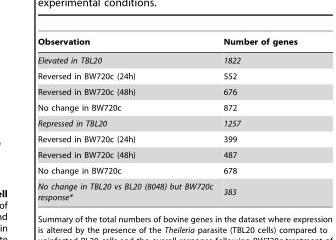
<table><thead><tr><td>Observation</td><td>Number of genes</td></tr></thead><tbody><tr><td>Elevated in TBL20</td><td>1822</td></tr><tr><td>Reversed in BW720c (24h)</td><td>552</td></tr><tr><td>Reversed in BW720c (48h)</td><td>676</td></tr><tr><td>No change in BW720c</td><td>872</td></tr><tr><td>Repressed in TBL20</td><td>1257</td></tr><tr><td>Reversed in BW720c (24h)</td><td>399</td></tr><tr><td>Reversed in BW720c (48h)</td><td>487</td></tr><tr><td>No change in BW720c</td><td>678</td></tr><tr><td>No change in TBL20 vs BL20 (8048) but BW720c response*</td><td>383</td></tr></tbody></table>